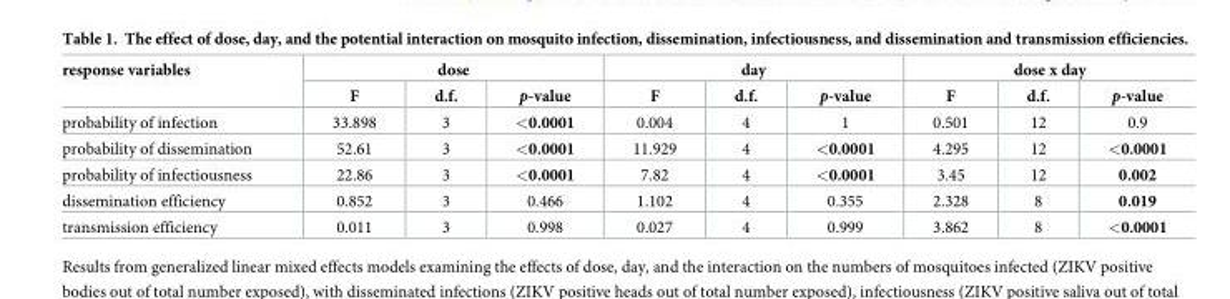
<table><thead><tr><td rowspan="2">response variables</td><td colspan="3">dose</td><td colspan="3">day</td><td colspan="3">dose x day</td></tr><tr><td>F</td><td>d.f.</td><td>p-value</td><td>F</td><td>d.f.</td><td>p-value</td><td>F</td><td>d.f.</td><td>p-value</td></tr></thead><tbody><tr><td>probability of infection</td><td>33.898</td><td>3</td><td>&lt;0.0001</td><td>0.004</td><td>4</td><td>1</td><td>0.501</td><td>12</td><td>0.9</td></tr><tr><td>probability of dissemination</td><td>52.61</td><td>3</td><td>&lt;0.0001</td><td>11.929</td><td>4</td><td>&lt;0.0001</td><td>4.295</td><td>12</td><td>&lt;0.0001</td></tr><tr><td>probability of infectiousness</td><td>22.86</td><td>3</td><td>&lt;0.0001</td><td>7.82</td><td>4</td><td>&lt;0.0001</td><td>3.45</td><td>12</td><td>0.002</td></tr><tr><td>dissemination efficiency</td><td>0.852</td><td>3</td><td>0.466</td><td>1.102</td><td>4</td><td>0.355</td><td>2.328</td><td>8</td><td>0.019</td></tr><tr><td>transmission efficiency</td><td>0.011</td><td>3</td><td>0.998</td><td>0.027</td><td>4</td><td>0.999</td><td>3.862</td><td>8</td><td>&lt;0.0001</td></tr></tbody></table>